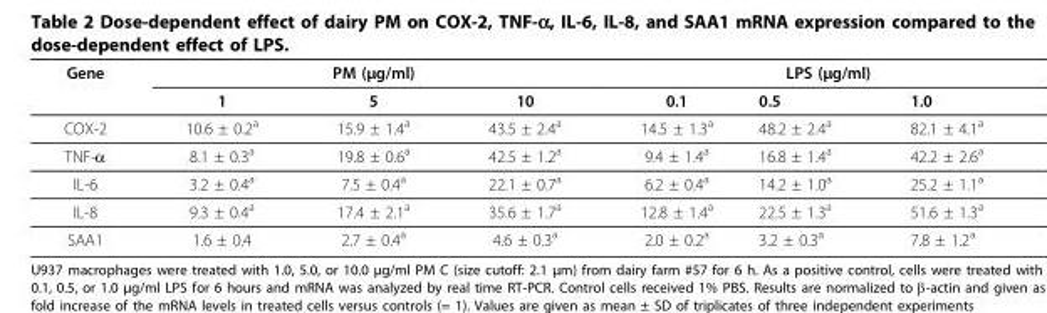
<table><thead><tr><td rowspan="2">Gene</td><td colspan="3">PM (μg/ml)</td><td colspan="3">LPS (μg/ml)</td></tr><tr><td>1</td><td>5</td><td>10</td><td>0.1</td><td>0.5</td><td>1.0</td></tr></thead><tbody><tr><td>COX-2</td><td>10.6 ± 0.2<sup>a</sup></td><td>15.9 ± 1.4<sup>a</sup></td><td>43.5 ± 2.4<sup>a</sup></td><td>14.5 ± 1.3<sup>a</sup></td><td>48.2 ± 2.4<sup>a</sup></td><td>82.1 ± 4.1<sup>a</sup></td></tr><tr><td>TNF-α</td><td>8.1 ± 0.3<sup>a</sup></td><td>19.8 ± 0.6<sup>a</sup></td><td>42.5 ± 1.2<sup>a</sup></td><td>9.4 ± 1.4<sup>a</sup></td><td>16.8 ± 1.4<sup>a</sup></td><td>42.2 ± 2.6<sup>a</sup></td></tr><tr><td>IL-6</td><td>3.2 ± 0.4<sup>a</sup></td><td>7.5 ± 0.4<sup>a</sup></td><td>22.1 ± 0.7<sup>a</sup></td><td>6.2 ± 0.4<sup>a</sup></td><td>14.2 ± 1.0<sup>a</sup></td><td>25.2 ± 1.1<sup>a</sup></td></tr><tr><td>IL-8</td><td>9.3 ± 0.4<sup>a</sup></td><td>17.4 ± 2.1<sup>a</sup></td><td>35.6 ± 1.7<sup>a</sup></td><td>12.8 ± 1.4<sup>a</sup></td><td>22.5 ± 1.3<sup>a</sup></td><td>51.6 ± 1.3<sup>a</sup></td></tr><tr><td>SAA1</td><td>1.6 ± 0.4</td><td>2.7 ± 0.4<sup>a</sup></td><td>4.6 ± 0.3<sup>a</sup></td><td>2.0 ± 0.2<sup>a</sup></td><td>3.2 ± 0.3<sup>a</sup></td><td>7.8 ± 1.2<sup>a</sup></td></tr></tbody></table>